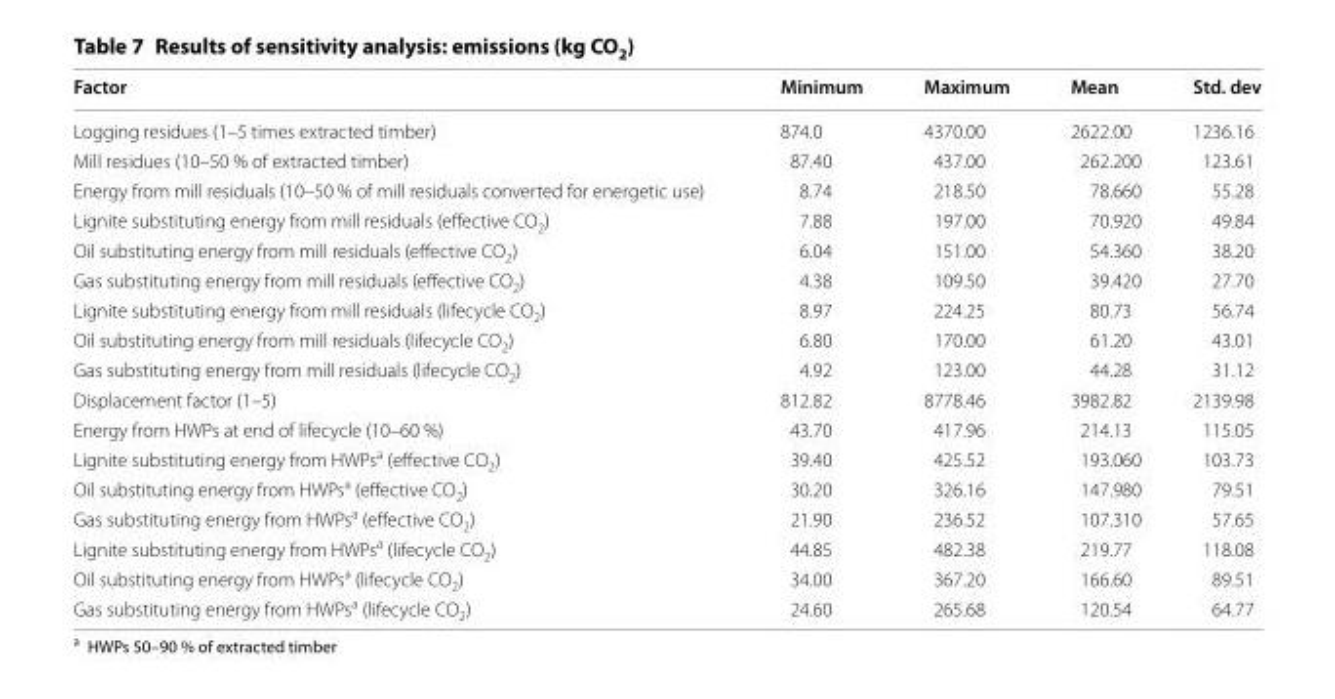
<table><thead><tr><td>Factor</td><td>Minimum</td><td>Maximum</td><td>Mean</td><td>Std. dev</td></tr></thead><tbody><tr><td>Logging residues (1–5 times extracted timber)</td><td>874.0</td><td>4370.00</td><td>2622.00</td><td>1236.16</td></tr><tr><td>Mill residues (10–50 % of extracted timber)</td><td>87.40</td><td>437.00</td><td>262.200</td><td>123.61</td></tr><tr><td>Energy from mill residuals (10–50 % of mill residuals converted for energetic use)</td><td>8.74</td><td>218.50</td><td>78.660</td><td>55.28</td></tr><tr><td>Lignite substituting energy from mill residuals (effective CO<sub>2</sub>)</td><td>7.88</td><td>197.00</td><td>70.920</td><td>49.84</td></tr><tr><td>Oil substituting energy from mill residuals (effective CO<sub>2</sub>)</td><td>6.04</td><td>151.00</td><td>54.360</td><td>38.20</td></tr><tr><td>Gas substituting energy from mill residuals (effective CO<sub>2</sub>)</td><td>4.38</td><td>109.50</td><td>39.420</td><td>27.70</td></tr><tr><td>Lignite substituting energy from mill residuals (lifecycle CO<sub>2</sub>)</td><td>8.97</td><td>224.25</td><td>80.73</td><td>56.74</td></tr><tr><td>Oil substituting energy from mill residuals (lifecycle CO<sub>2</sub>)</td><td>6.80</td><td>170.00</td><td>61.20</td><td>43.01</td></tr><tr><td>Gas substituting energy from mill residuals (lifecycle CO<sub>2</sub>)</td><td>4.92</td><td>123.00</td><td>44.28</td><td>31.12</td></tr><tr><td>Displacement factor (1–5)</td><td>812.82</td><td>8778.46</td><td>3982.82</td><td>2139.98</td></tr><tr><td>Energy from HWPs at end of lifecycle (10–60 %)</td><td>43.70</td><td>417.96</td><td>214.13</td><td>115.05</td></tr><tr><td>Lignite substituting energy from HWPs<sup>a</sup> (effective CO<sub>2</sub>)</td><td>39.40</td><td>425.52</td><td>193.060</td><td>103.73</td></tr><tr><td>Oil substituting energy from HWPs<sup>a</sup> (effective CO<sub>2</sub>)</td><td>30.20</td><td>326.16</td><td>147.980</td><td>79.51</td></tr><tr><td>Gas substituting energy from HWPs<sup>a</sup> (effective CO<sub>2</sub>)</td><td>21.90</td><td>236.52</td><td>107.310</td><td>57.65</td></tr><tr><td>Lignite substituting energy from HWPs<sup>a</sup> (lifecycle CO<sub>2</sub>)</td><td>44.85</td><td>482.38</td><td>219.77</td><td>118.08</td></tr><tr><td>Oil substituting energy from HWPs<sup>a</sup> (lifecycle CO<sub>2</sub>)</td><td>34.00</td><td>367.20</td><td>166.60</td><td>89.51</td></tr><tr><td>Gas substituting energy from HWPs<sup>a</sup> (lifecycle CO<sub>2</sub>)</td><td>24.60</td><td>265.68</td><td>120.54</td><td>64.77</td></tr></tbody></table>